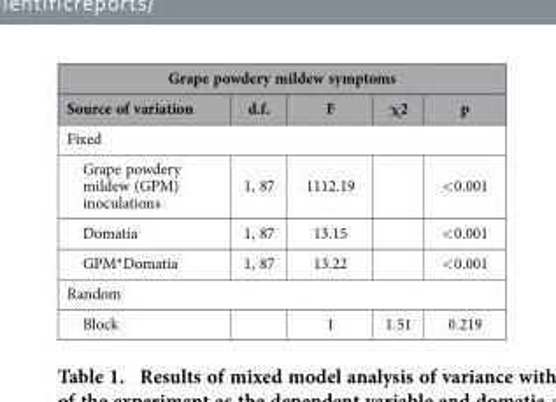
<table><thead><tr><td colspan="5">Grape powdery mildew symptoms</td></tr><tr><td>Source of variation</td><td>d.f.</td><td>F</td><td>χ2</td><td>p</td></tr></thead><tbody><tr><td colspan="5">Fixed</td></tr><tr><td>Grape powdery mildew (GPM) inoculations</td><td>1, 87</td><td>1112.19</td><td></td><td>&lt;0.001</td></tr><tr><td>Domatia</td><td>1, 87</td><td>13.15</td><td></td><td>&lt;0.001</td></tr><tr><td>GPM*Domatia</td><td>1, 87</td><td>13.22</td><td></td><td>&lt;0.001</td></tr><tr><td colspan="5">Random</td></tr><tr><td>Block</td><td></td><td>1</td><td>1.51</td><td>0.219</td></tr></tbody></table>